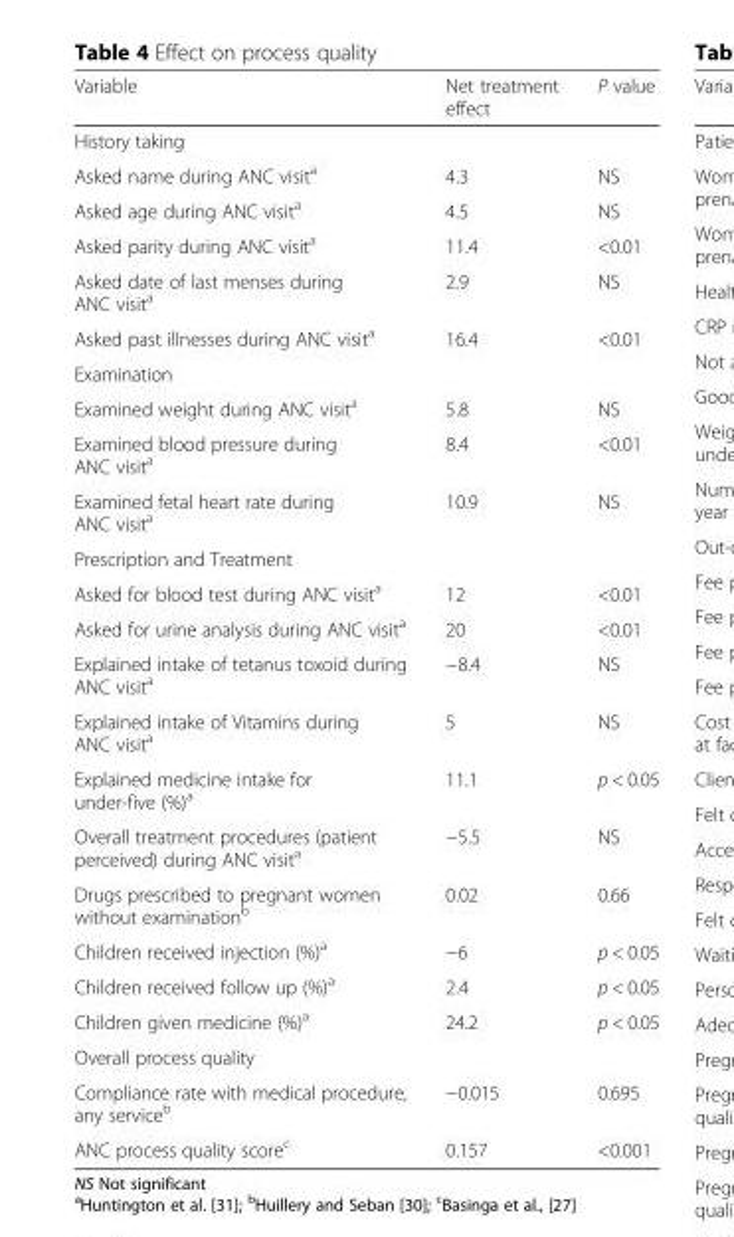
<table><thead><tr><td>Variable</td><td>Net treatment effect</td><td>P value</td></tr></thead><tbody><tr><td colspan="3">History taking</td></tr><tr><td>Asked name during ANC visit<sup>a</sup></td><td>4.3</td><td>NS</td></tr><tr><td>Asked age during ANC visit<sup>a</sup></td><td>4.5</td><td>NS</td></tr><tr><td>Asked parity during ANC visit<sup>a</sup></td><td>11.4</td><td>&lt;0.01</td></tr><tr><td>Asked date of last menses during ANC visit<sup>a</sup></td><td>2.9</td><td>NS</td></tr><tr><td>Asked past illnesses during ANC visit<sup>a</sup></td><td>16.4</td><td>&lt;0.01</td></tr><tr><td colspan="3">Examination</td></tr><tr><td>Examined weight during ANC visit<sup>a</sup></td><td>5.8</td><td>NS</td></tr><tr><td>Examined blood pressure during ANC visit<sup>a</sup></td><td>8.4</td><td>&lt;0.01</td></tr><tr><td>Examined fetal heart rate during ANC visit<sup>a</sup></td><td>10.9</td><td>NS</td></tr><tr><td colspan="3">Prescription and Treatment</td></tr><tr><td>Asked for blood test during ANC visit<sup>a</sup></td><td>12</td><td>&lt;0.01</td></tr><tr><td>Asked for urine analysis during ANC visit<sup>a</sup></td><td>20</td><td>&lt;0.01</td></tr><tr><td>Explained intake of tetanus toxoid during ANC visit<sup>a</sup></td><td>−8.4</td><td>NS</td></tr><tr><td>Explained intake of Vitamins during ANC visit<sup>a</sup></td><td>5</td><td>NS</td></tr><tr><td>Explained medicine intake for under-five (%)<sup>a</sup></td><td>11.1</td><td>p &lt; 0.05</td></tr><tr><td>Overall treatment procedures (patient perceived) during ANC visit<sup>a</sup></td><td>−5.5</td><td>NS</td></tr><tr><td>Drugs prescribed to pregnant women without examination<sup>b</sup></td><td>0.02</td><td>0.66</td></tr><tr><td>Children received injection (%)<sup>a</sup></td><td>−6</td><td>p &lt; 0.05</td></tr><tr><td>Children received follow up (%)<sup>a</sup></td><td>2.4</td><td>p &lt; 0.05</td></tr><tr><td>Children given medicine (%)<sup>a</sup></td><td>24.2</td><td>p &lt; 0.05</td></tr><tr><td colspan="3">Overall process quality</td></tr><tr><td>Compliance rate with medical procedure, any service<sup>b</sup></td><td>−0.015</td><td>0.695</td></tr><tr><td>ANC process quality score<sup>c</sup></td><td>0.157</td><td>&lt;0.001</td></tr></tbody></table>